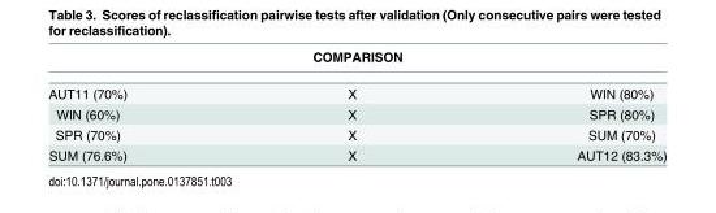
<table><thead><tr><td colspan="3">COMPARISON</td></tr><tr><td>AUT11 (70%)</td><td>X</td><td>WIN (80%)</td></tr></thead><tbody><tr><td>WIN (60%)</td><td>X</td><td>SPR (80%)</td></tr><tr><td>SPR (70%)</td><td>X</td><td>SUM (70%)</td></tr><tr><td>SUM (76.6%)</td><td>X</td><td>AUT12 (83.3%)</td></tr></tbody></table>